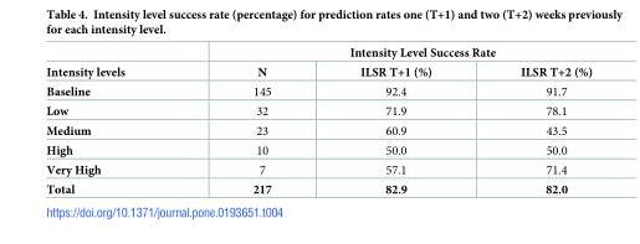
<table><thead><tr><td rowspan="2">Intensity levels</td><td colspan="3">Intensity Level Success Rate</td></tr><tr><td>N</td><td>ILSR T+1 (%)</td><td>ILSR T+2 (%)</td></tr></thead><tbody><tr><td>Baseline</td><td>145</td><td>92.4</td><td>91.7</td></tr><tr><td>Low</td><td>32</td><td>71.9</td><td>78.1</td></tr><tr><td>Medium</td><td>23</td><td>60.9</td><td>43.5</td></tr><tr><td>High</td><td>10</td><td>50.0</td><td>50.0</td></tr><tr><td>Very High</td><td>7</td><td>57.1</td><td>71.4</td></tr><tr><td>Total</td><td>217</td><td>82.9</td><td>82.0</td></tr></tbody></table>